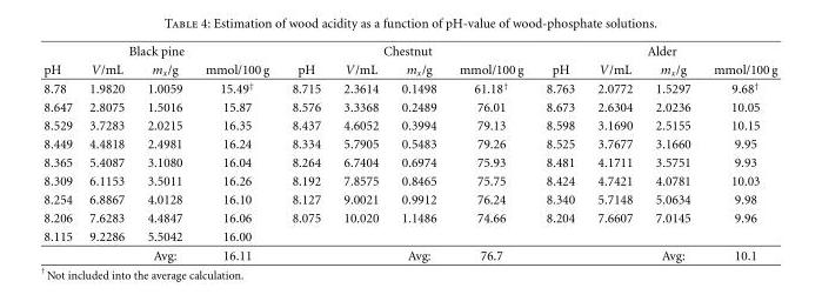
<table><thead><tr><td rowspan="2">pH</td><td colspan="2">Black pine</td><td rowspan="2">mmol/100 g</td><td colspan="4">Chestnut</td><td colspan="4">Alder</td></tr><tr><td>V/mL</td><td>m<sub>x</sub>/g</td><td>pH</td><td>V/mL</td><td>m<sub>x</sub>/g</td><td>mmol/100 g</td><td>pH</td><td>V/mL</td><td>m<sub>x</sub>/g</td><td>mmol/100 g</td></tr></thead><tbody><tr><td>8.78</td><td>1.9820</td><td>1.0059</td><td>15.49<sup>†</sup></td><td>8.715</td><td>2.3614</td><td>0.1498</td><td>61.18<sup>†</sup></td><td>8.763</td><td>2.0772</td><td>1.5297</td><td>9.68<sup>†</sup></td></tr><tr><td>8.647</td><td>2.8075</td><td>1.5016</td><td>15.87</td><td>8.576</td><td>3.3368</td><td>0.2489</td><td>76.01</td><td>8.673</td><td>2.6304</td><td>2.0236</td><td>10.05</td></tr><tr><td>8.529</td><td>3.7283</td><td>2.0215</td><td>16.35</td><td>8.437</td><td>4.6052</td><td>0.3994</td><td>79.13</td><td>8.598</td><td>3.1690</td><td>2.5155</td><td>10.15</td></tr><tr><td>8.449</td><td>4.4818</td><td>2.4981</td><td>16.24</td><td>8.334</td><td>5.7905</td><td>0.5483</td><td>79.26</td><td>8.525</td><td>3.7677</td><td>3.1660</td><td>9.95</td></tr><tr><td>8.365</td><td>5.4087</td><td>3.1080</td><td>16.04</td><td>8.264</td><td>6.7404</td><td>0.6974</td><td>75.93</td><td>8.481</td><td>4.1711</td><td>3.5751</td><td>9.93</td></tr><tr><td>8.309</td><td>6.1153</td><td>3.5011</td><td>16.26</td><td>8.192</td><td>7.8575</td><td>0.8465</td><td>75.75</td><td>8.424</td><td>4.7421</td><td>4.0781</td><td>10.03</td></tr><tr><td>8.254</td><td>6.8867</td><td>4.0128</td><td>16.10</td><td>8.127</td><td>9.0021</td><td>0.9912</td><td>76.24</td><td>8.340</td><td>5.7148</td><td>5.0634</td><td>9.98</td></tr><tr><td>8.206</td><td>7.6283</td><td>4.4847</td><td>16.06</td><td>8.075</td><td>10.020</td><td>1.1486</td><td>74.66</td><td>8.204</td><td>7.6607</td><td>7.0145</td><td>9.96</td></tr><tr><td rowspan="2">8.115</td><td>9.2286</td><td>5.5042</td><td>16.00</td><td></td><td></td><td></td><td></td><td></td><td></td><td></td><td></td></tr><tr><td></td><td>Avg:</td><td>16.11</td><td></td><td></td><td>Avg:</td><td>76.7</td><td></td><td></td><td>Avg:</td><td>10.1</td></tr></tbody></table>